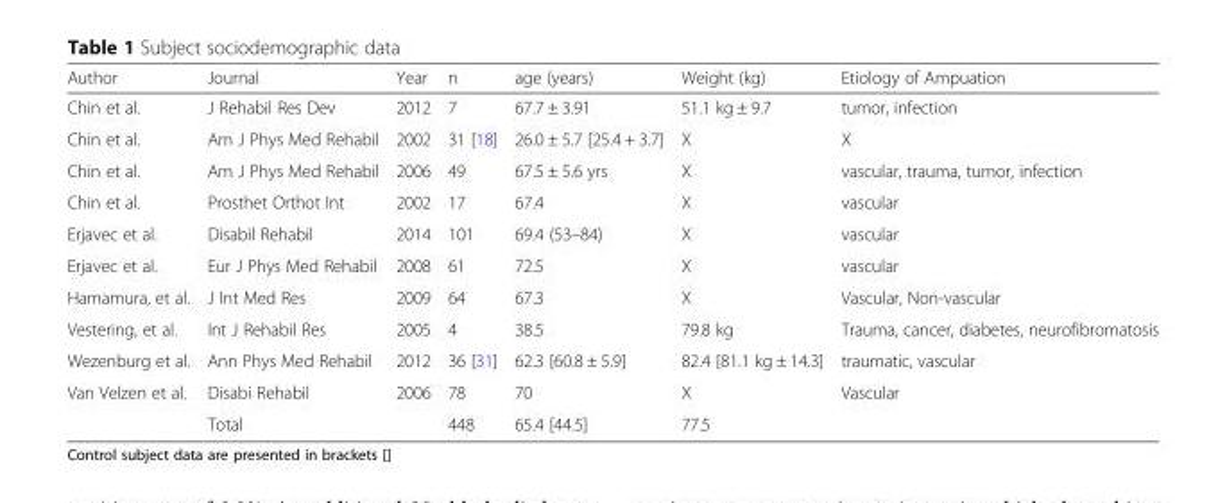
<table><thead><tr><td>Author</td><td>Journal</td><td>Year</td><td>n</td><td>age (years)</td><td>Weight (kg)</td><td>Etiology of Ampuation</td></tr></thead><tbody><tr><td>Chin et al.</td><td>J Rehabil Res Dev</td><td>2012</td><td>7</td><td>67.7 ± 3.91</td><td>51.1 kg ± 9.7</td><td>tumor, infection</td></tr><tr><td>Chin et al.</td><td>Am J Phys Med Rehabil</td><td>2002</td><td>31 [18]</td><td>26.0 ± 5.7 [25.4 + 3.7]</td><td>X</td><td>X</td></tr><tr><td>Chin et al.</td><td>Am J Phys Med Rehabil</td><td>2006</td><td>49</td><td>67.5 ± 5.6 yrs</td><td>X</td><td>vascular, trauma, tumor, infection</td></tr><tr><td>Chin et al.</td><td>Prosthet Orthot Int</td><td>2002</td><td>17</td><td>67.4</td><td>X</td><td>vascular</td></tr><tr><td>Erjavec et al.</td><td>Disabil Rehabil</td><td>2014</td><td>101</td><td>69.4 (53–84)</td><td>X</td><td>vascular</td></tr><tr><td>Erjavec et al.</td><td>Eur J Phys Med Rehabil</td><td>2008</td><td>61</td><td>72.5</td><td>X</td><td>vascular</td></tr><tr><td>Hamamura, et al.</td><td>J Int Med Res</td><td>2009</td><td>64</td><td>67.3</td><td>X</td><td>Vascular, Non-vascular</td></tr><tr><td>Vestering, et al.</td><td>Int J Rehabil Res</td><td>2005</td><td>4</td><td>38.5</td><td>79.8 kg</td><td>Trauma, cancer, diabetes, neurofibromatosis</td></tr><tr><td>Wezenburg et al.</td><td>Ann Phys Med Rehabil</td><td>2012</td><td>36 [31]</td><td>62.3 [60.8 ± 5.9]</td><td>82.4 [81.1 kg ± 14.3]</td><td>traumatic, vascular</td></tr><tr><td rowspan="2">Van Velzen et al.</td><td>Disabi Rehabil</td><td>2006</td><td>78</td><td>70</td><td>X</td><td>Vascular</td></tr><tr><td>Total</td><td></td><td>448</td><td>65.4 [44.5]</td><td>77.5</td><td></td></tr></tbody></table>